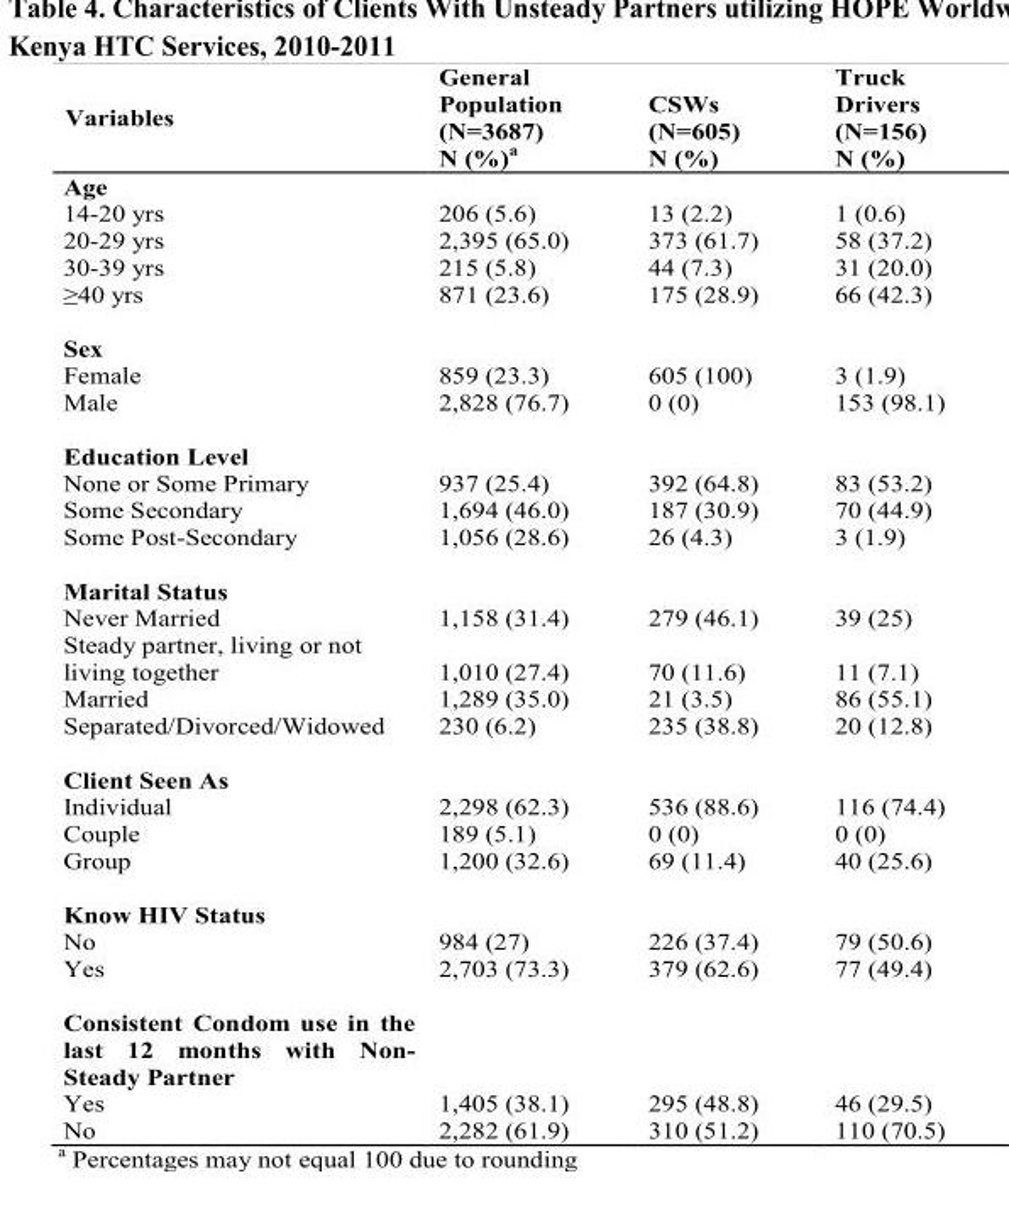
<table><thead><tr><td>Variables</td><td>General Population (N=3687) N (%)<sup>a</sup></td><td>CSWs (N=605) N (%)</td><td>Truck Drivers (N=156) N (%)</td></tr></thead><tbody><tr><td colspan="4">Age</td></tr><tr><td>14-20 yrs</td><td>206 (5.6)</td><td>13 (2.2)</td><td>1 (0.6)</td></tr><tr><td>20-29 yrs</td><td>2,395 (65.0)</td><td>373 (61.7)</td><td>58 (37.2)</td></tr><tr><td>30-39 yrs</td><td>215 (5.8)</td><td>44 (7.3)</td><td>31 (20.0)</td></tr><tr><td>≥40 yrs</td><td>871 (23.6)</td><td>175 (28.9)</td><td>66 (42.3)</td></tr><tr><td colspan="4">Sex</td></tr><tr><td>Female</td><td>859 (23.3)</td><td>605 (100)</td><td>3 (1.9)</td></tr><tr><td>Male</td><td>2,828 (76.7)</td><td>0 (0)</td><td>153 (98.1)</td></tr><tr><td colspan="4">Education Level</td></tr><tr><td>None or Some Primary</td><td>937 (25.4)</td><td>392 (64.8)</td><td>83 (53.2)</td></tr><tr><td>Some Secondary</td><td>1,694 (46.0)</td><td>187 (30.9)</td><td>70 (44.9)</td></tr><tr><td>Some Post-Secondary</td><td>1,056 (28.6)</td><td>26 (4.3)</td><td>3 (1.9)</td></tr><tr><td colspan="4">Marital Status</td></tr><tr><td>Never Married</td><td>1,158 (31.4)</td><td>279 (46.1)</td><td>39 (25)</td></tr><tr><td>Steady partner, living or not living together</td><td>1,010 (27.4)</td><td>70 (11.6)</td><td>11 (7.1)</td></tr><tr><td>Married</td><td>1,289 (35.0)</td><td>21 (3.5)</td><td>86 (55.1)</td></tr><tr><td>Separated/Divorced/Widowed</td><td>230 (6.2)</td><td>235 (38.8)</td><td>20 (12.8)</td></tr><tr><td colspan="4">Client Seen As</td></tr><tr><td>Individual</td><td>2,298 (62.3)</td><td>536 (88.6)</td><td>116 (74.4)</td></tr><tr><td>Couple</td><td>189 (5.1)</td><td>0 (0)</td><td>0 (0)</td></tr><tr><td>Group</td><td>1,200 (32.6)</td><td>69 (11.4)</td><td>40 (25.6)</td></tr><tr><td colspan="4">Know HIV Status</td></tr><tr><td>No</td><td>984 (27)</td><td>226 (37.4)</td><td>79 (50.6)</td></tr><tr><td>Yes</td><td>2,703 (73.3)</td><td>379 (62.6)</td><td>77 (49.4)</td></tr><tr><td colspan="4">Consistent Condom use in the last 12 months with Non- Steady Partner</td></tr><tr><td>Yes</td><td>1,405 (38.1)</td><td>295 (48.8)</td><td>46 (29.5)</td></tr><tr><td>No</td><td>2,282 (61.9)</td><td>310 (51.2)</td><td>110 (70.5)</td></tr></tbody></table>